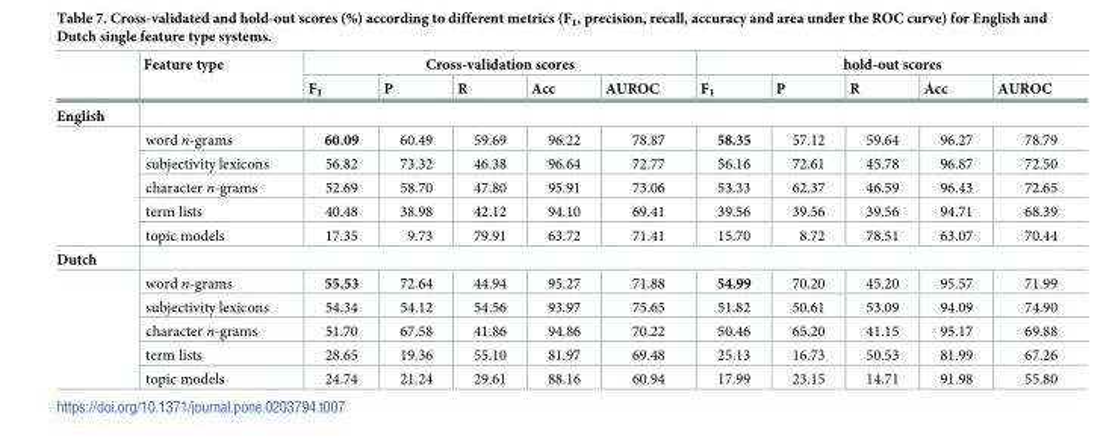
<table><thead><tr><td rowspan="2"></td><td rowspan="2">Feature type</td><td colspan="5">Cross-validation scores</td><td colspan="5">hold-out scores</td></tr><tr><td>F<sub>1</sub></td><td>P</td><td>R</td><td>Acc</td><td>AUROC</td><td>F<sub>1</sub></td><td>P</td><td>R</td><td>Acc</td><td>AUROC</td></tr></thead><tbody><tr><td colspan="12">English</td></tr><tr><td rowspan="5"></td><td>word n-grams</td><td>60.09</td><td>60.49</td><td>59.69</td><td>96.22</td><td>78.87</td><td>58.35</td><td>57.12</td><td>59.64</td><td>96.27</td><td>78.79</td></tr><tr><td>subjectivity lexicons</td><td>56.82</td><td>73.32</td><td>46.38</td><td>96.64</td><td>72.77</td><td>56.16</td><td>72.61</td><td>45.78</td><td>96.87</td><td>72.50</td></tr><tr><td>character n-grams</td><td>52.69</td><td>58.70</td><td>47.80</td><td>95.91</td><td>73.06</td><td>53.33</td><td>62.37</td><td>46.59</td><td>96.43</td><td>72.65</td></tr><tr><td>term lists</td><td>40.48</td><td>38.98</td><td>42.12</td><td>94.10</td><td>69.41</td><td>39.56</td><td>39.56</td><td>39.56</td><td>94.71</td><td>68.39</td></tr><tr><td>topic models</td><td>17.35</td><td>9.73</td><td>79.91</td><td>63.72</td><td>71.41</td><td>15.70</td><td>8.72</td><td>78.51</td><td>63.07</td><td>70.44</td></tr><tr><td colspan="12">Dutch</td></tr><tr><td rowspan="5"></td><td>word n-grams</td><td>55.53</td><td>72.64</td><td>44.94</td><td>95.27</td><td>71.88</td><td>54.99</td><td>70.20</td><td>45.20</td><td>95.57</td><td>71.99</td></tr><tr><td>subjectivity lexicons</td><td>54.34</td><td>54.12</td><td>54.56</td><td>93.97</td><td>75.65</td><td>51.82</td><td>50.61</td><td>53.09</td><td>94.09</td><td>74.90</td></tr><tr><td>character n-grams</td><td>51.70</td><td>67.58</td><td>41.86</td><td>94.86</td><td>70.22</td><td>50.46</td><td>65.20</td><td>41.15</td><td>95.17</td><td>69.88</td></tr><tr><td>term lists</td><td>28.65</td><td>19.36</td><td>55.10</td><td>81.97</td><td>69.48</td><td>25.13</td><td>16.73</td><td>50.53</td><td>81.99</td><td>67.26</td></tr><tr><td>topic models</td><td>24.74</td><td>21.24</td><td>29.61</td><td>88.16</td><td>60.94</td><td>17.99</td><td>23.15</td><td>14.71</td><td>91.98</td><td>55.80</td></tr></tbody></table>